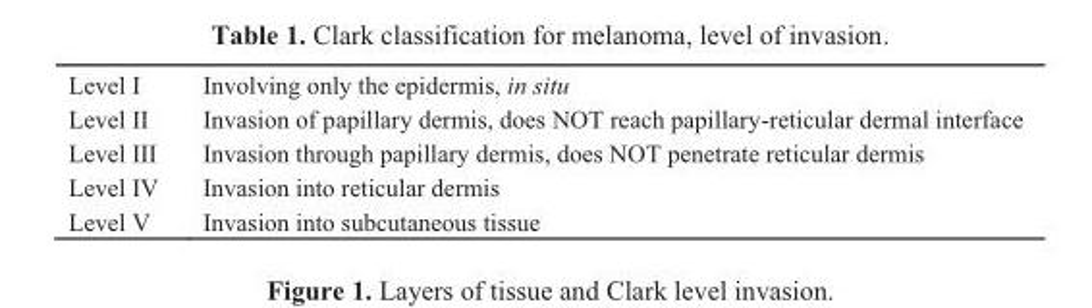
<table><tbody><tr><td>Level I</td><td>Involving only the epidermis, in situ</td></tr><tr><td>Level II</td><td>Invasion of papillary dermis, does NOT reach papillary-reticular dermal interface</td></tr><tr><td>Level III</td><td>Invasion through papillary dermis, does NOT penetrate reticular dermis</td></tr><tr><td>Level IV</td><td>Invasion into reticular dermis</td></tr><tr><td>Level V</td><td>Invasion into subcutaneous tissue</td></tr></tbody></table>